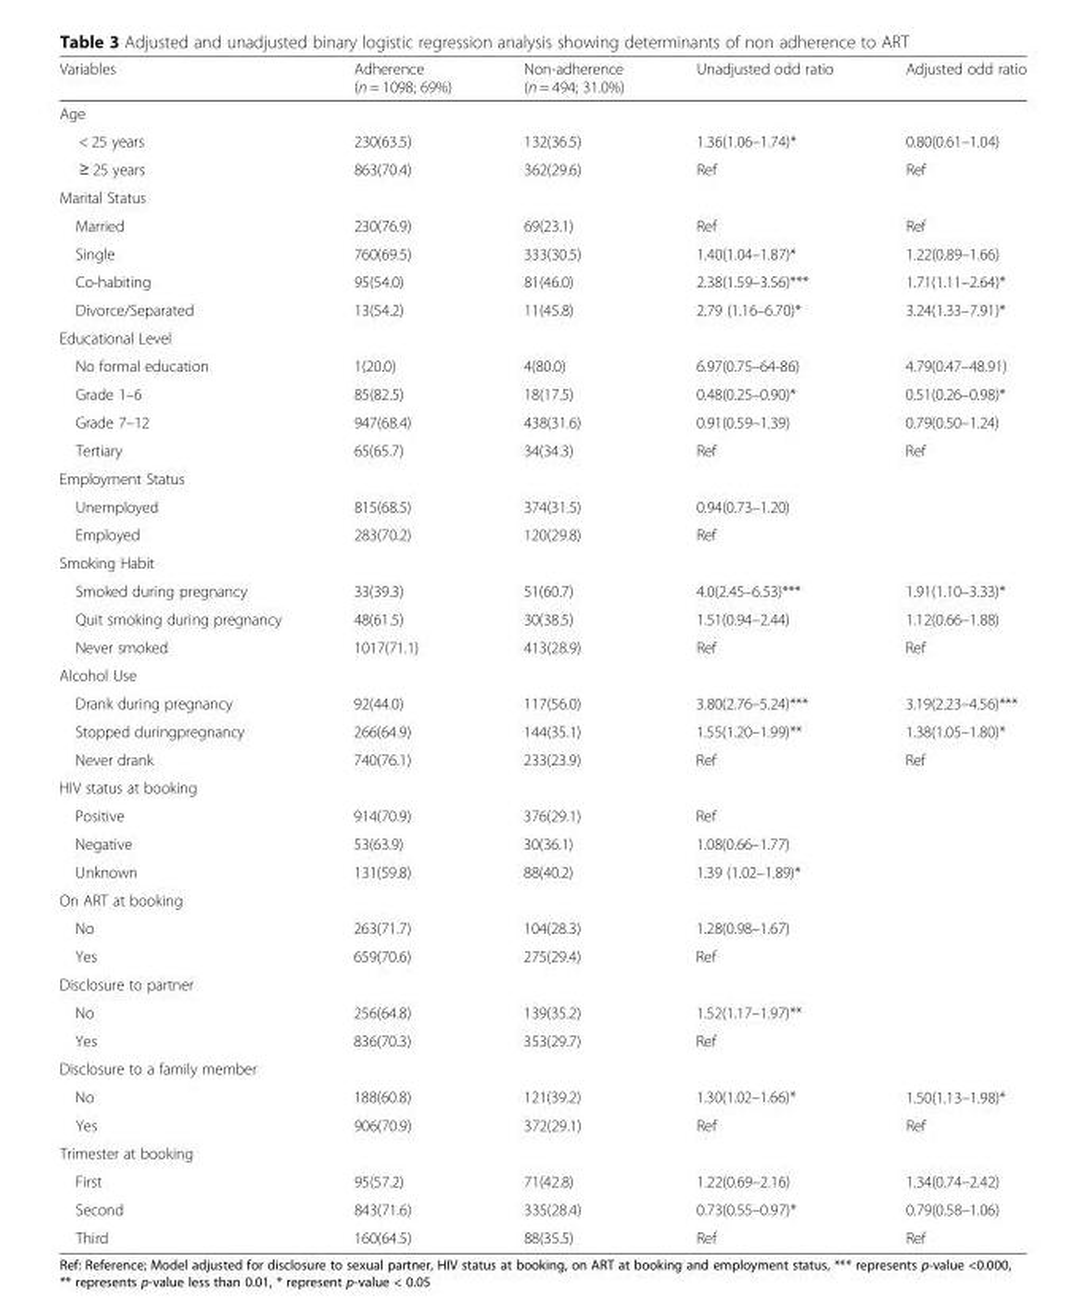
<table><thead><tr><td>Variables</td><td>Adherence (n = 1098; 69%)</td><td>Non-adherence (n = 494; 31.0%)</td><td>Unadjusted odd ratio</td><td>Adjusted odd ratio</td></tr></thead><tbody><tr><td colspan="5">Age</td></tr><tr><td>&lt; 25 years</td><td>230(63.5)</td><td>132(36.5)</td><td>1.36(1.06–1.74)*</td><td>0.80(0.61–1.04)</td></tr><tr><td>≥ 25 years</td><td>863(70.4)</td><td>362(29.6)</td><td>Ref</td><td>Ref</td></tr><tr><td colspan="5">Marital Status</td></tr><tr><td>Married</td><td>230(76.9)</td><td>69(23.1)</td><td>Ref</td><td>Ref</td></tr><tr><td>Single</td><td>760(69.5)</td><td>333(30.5)</td><td>1.40(1.04–1.87)*</td><td>1.22(0.89–1.66)</td></tr><tr><td>Co-habiting</td><td>95(54.0)</td><td>81(46.0)</td><td>2.38(1.59–3.56)***</td><td>1.71(1.11–2.64)*</td></tr><tr><td>Divorce/Separated</td><td>13(54.2)</td><td>11(45.8)</td><td>2.79 (1.16–6.70)*</td><td>3.24(1.33–7.91)*</td></tr><tr><td colspan="5">Educational Level</td></tr><tr><td>No formal education</td><td>1(20.0)</td><td>4(80.0)</td><td>6.97(0.75–64-86)</td><td>4.79(0.47–48.91)</td></tr><tr><td>Grade 1–6</td><td>85(82.5)</td><td>18(17.5)</td><td>0.48(0.25–0.90)*</td><td>0.51(0.26–0.98)*</td></tr><tr><td>Grade 7–12</td><td>947(68.4)</td><td>438(31.6)</td><td>0.91(0.59–1.39)</td><td>0.79(0.50–1.24)</td></tr><tr><td>Tertiary</td><td>65(65.7)</td><td>34(34.3)</td><td>Ref</td><td>Ref</td></tr><tr><td colspan="5">Employment Status</td></tr><tr><td>Unemployed</td><td>815(68.5)</td><td>374(31.5)</td><td>0.94(0.73–1.20)</td><td></td></tr><tr><td>Employed</td><td>283(70.2)</td><td>120(29.8)</td><td>Ref</td><td></td></tr><tr><td colspan="5">Smoking Habit</td></tr><tr><td>Smoked during pregnancy</td><td>33(39.3)</td><td>51(60.7)</td><td>4.0(2.45–6.53)***</td><td>1.91(1.10–3.33)*</td></tr><tr><td>Quit smoking during pregnancy</td><td>48(61.5)</td><td>30(38.5)</td><td>1.51(0.94–2.44)</td><td>1.12(0.66–1.88)</td></tr><tr><td>Never smoked</td><td>1017(71.1)</td><td>413(28.9)</td><td>Ref</td><td>Ref</td></tr><tr><td colspan="5">Alcohol Use</td></tr><tr><td>Drank during pregnancy</td><td>92(44.0)</td><td>117(56.0)</td><td>3.80(2.76–5.24)***</td><td>3.19(2.23–4.56)***</td></tr><tr><td>Stopped duringpregnancy</td><td>266(64.9)</td><td>144(35.1)</td><td>1.55(1.20–1.99)**</td><td>1.38(1.05–1.80)*</td></tr><tr><td>Never drank</td><td>740(76.1)</td><td>233(23.9)</td><td>Ref</td><td>Ref</td></tr><tr><td colspan="5">HIV status at booking</td></tr><tr><td>Positive</td><td>914(70.9)</td><td>376(29.1)</td><td>Ref</td><td></td></tr><tr><td>Negative</td><td>53(63.9)</td><td>30(36.1)</td><td>1.08(0.66–1.77)</td><td></td></tr><tr><td>Unknown</td><td>131(59.8)</td><td>88(40.2)</td><td>1.39 (1.02–1.89)*</td><td></td></tr><tr><td colspan="5">On ART at booking</td></tr><tr><td>No</td><td>263(71.7)</td><td>104(28.3)</td><td>1.28(0.98–1.67)</td><td></td></tr><tr><td>Yes</td><td>659(70.6)</td><td>275(29.4)</td><td>Ref</td><td></td></tr><tr><td colspan="5">Disclosure to partner</td></tr><tr><td>No</td><td>256(64.8)</td><td>139(35.2)</td><td>1.52(1.17–1.97)**</td><td></td></tr><tr><td>Yes</td><td>836(70.3)</td><td>353(29.7)</td><td>Ref</td><td></td></tr><tr><td colspan="5">Disclosure to a family member</td></tr><tr><td>No</td><td>188(60.8)</td><td>121(39.2)</td><td>1.30(1.02–1.66)*</td><td>1.50(1.13–1.98)*</td></tr><tr><td>Yes</td><td>906(70.9)</td><td>372(29.1)</td><td>Ref</td><td>Ref</td></tr><tr><td colspan="5">Trimester at booking</td></tr><tr><td>First</td><td>95(57.2)</td><td>71(42.8)</td><td>1.22(0.69–2.16)</td><td>1.34(0.74–2.42)</td></tr><tr><td>Second</td><td>843(71.6)</td><td>335(28.4)</td><td>0.73(0.55–0.97)*</td><td>0.79(0.58–1.06)</td></tr><tr><td>Third</td><td>160(64.5)</td><td>88(35.5)</td><td>Ref</td><td>Ref</td></tr></tbody></table>